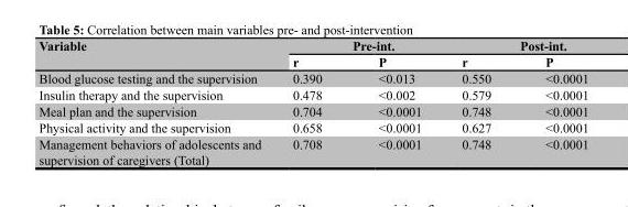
<table><thead><tr><td rowspan="2">Variable</td><td colspan="2">Pre-int.</td><td colspan="2">Post-int.</td></tr><tr><td>r</td><td>P</td><td>r</td><td>P</td></tr></thead><tbody><tr><td>Blood glucose testing and the supervision</td><td>0.390</td><td>&lt;0.013</td><td>0.550</td><td>&lt;0.0001</td></tr><tr><td>Insulin therapy and the supervision</td><td>0.478</td><td>&lt;0.002</td><td>0.579</td><td>&lt;0.0001</td></tr><tr><td>Meal plan and the supervision</td><td>0.704</td><td>&lt;0.0001</td><td>0.748</td><td>&lt;0.0001</td></tr><tr><td>Physical activity and the supervision</td><td>0.658</td><td>&lt;0.0001</td><td>0.627</td><td>&lt;0.0001</td></tr><tr><td>Management behaviors of adolescents and supervision of caregivers (Total)</td><td>0.708</td><td>&lt;0.0001</td><td>0.748</td><td>&lt;0.0001</td></tr></tbody></table>